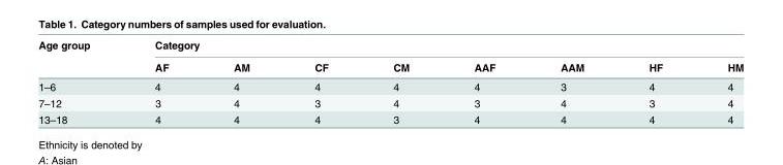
<table><thead><tr><td rowspan="2">Age group</td><td colspan="8">Category</td></tr><tr><td>AF</td><td>AM</td><td>CF</td><td>CM</td><td>AAF</td><td>AAM</td><td>HF</td><td>HM</td></tr></thead><tbody><tr><td>1–6</td><td>4</td><td>4</td><td>4</td><td>4</td><td>4</td><td>3</td><td>4</td><td>4</td></tr><tr><td>7–12</td><td>3</td><td>4</td><td>3</td><td>4</td><td>3</td><td>4</td><td>3</td><td>4</td></tr><tr><td>13–18</td><td>4</td><td>4</td><td>4</td><td>3</td><td>4</td><td>4</td><td>4</td><td>4</td></tr></tbody></table>